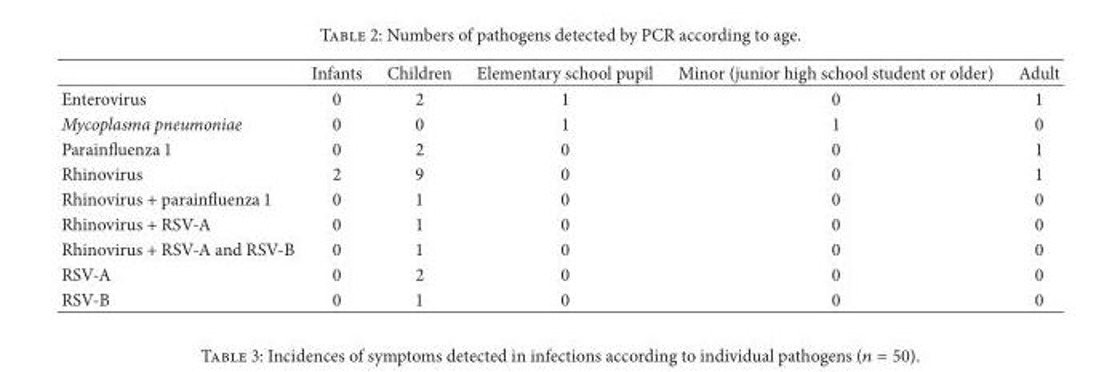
<table><thead><tr><td></td><td>Infants</td><td>Children</td><td>Elementary school pupil</td><td>Minor (junior high school student or older)</td><td>Adult</td></tr></thead><tbody><tr><td>Enterovirus</td><td>0</td><td>2</td><td>1</td><td>0</td><td>1</td></tr><tr><td>Mycoplasma pneumoniae</td><td>0</td><td>0</td><td>1</td><td>1</td><td>0</td></tr><tr><td>Parainfluenza 1</td><td>0</td><td>2</td><td>0</td><td>0</td><td>1</td></tr><tr><td>Rhinovirus</td><td>2</td><td>9</td><td>0</td><td>0</td><td>1</td></tr><tr><td>Rhinovirus + parainfluenza 1</td><td>0</td><td>1</td><td>0</td><td>0</td><td>0</td></tr><tr><td>Rhinovirus + RSV-A</td><td>0</td><td>1</td><td>0</td><td>0</td><td>0</td></tr><tr><td>Rhinovirus + RSV-A and RSV-B</td><td>0</td><td>1</td><td>0</td><td>0</td><td>0</td></tr><tr><td>RSV-A</td><td>0</td><td>2</td><td>0</td><td>0</td><td>0</td></tr><tr><td>RSV-B</td><td>0</td><td>1</td><td>0</td><td>0</td><td>0</td></tr></tbody></table>